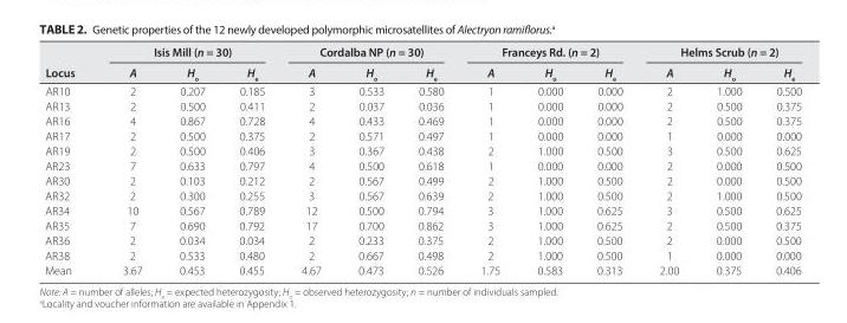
<table><thead><tr><td rowspan="2">Locus</td><td colspan="3">Isis Mill (n = 30)</td><td colspan="3">Cordalba NP (n = 30)</td><td colspan="3">Franceys Rd. (n = 2)</td><td colspan="3">Helms Scrub (n = 2)</td></tr><tr><td>A</td><td>H<sub>o</sub></td><td>H<sub>e</sub></td><td>A</td><td>H<sub>o</sub></td><td>H<sub>e</sub></td><td>A</td><td>H<sub>o</sub></td><td>H<sub>e</sub></td><td>A</td><td>H<sub>o</sub></td><td>H<sub>e</sub></td></tr></thead><tbody><tr><td>AR10</td><td>2</td><td>0.207</td><td>0.185</td><td>3</td><td>0.533</td><td>0.580</td><td>1</td><td>0.000</td><td>0.000</td><td>2</td><td>1.000</td><td>0.500</td></tr><tr><td>AR13</td><td>2</td><td>0.500</td><td>0.411</td><td>2</td><td>0.037</td><td>0.036</td><td>1</td><td>0.000</td><td>0.000</td><td>2</td><td>0.500</td><td>0.375</td></tr><tr><td>AR16</td><td>4</td><td>0.867</td><td>0.728</td><td>4</td><td>0.433</td><td>0.469</td><td>1</td><td>0.000</td><td>0.000</td><td>2</td><td>0.500</td><td>0.375</td></tr><tr><td>AR17</td><td>2</td><td>0.500</td><td>0.375</td><td>2</td><td>0.571</td><td>0.497</td><td>1</td><td>0.000</td><td>0.000</td><td>1</td><td>0.000</td><td>0.000</td></tr><tr><td>AR19</td><td>2</td><td>0.500</td><td>0.406</td><td>3</td><td>0.367</td><td>0.438</td><td>2</td><td>1.000</td><td>0.500</td><td>3</td><td>0.500</td><td>0.625</td></tr><tr><td>AR23</td><td>7</td><td>0.633</td><td>0.797</td><td>4</td><td>0.500</td><td>0.618</td><td>1</td><td>0.000</td><td>0.000</td><td>2</td><td>0.000</td><td>0.500</td></tr><tr><td>AR30</td><td>2</td><td>0.103</td><td>0.212</td><td>2</td><td>0.567</td><td>0.499</td><td>2</td><td>1.000</td><td>0.500</td><td>2</td><td>0.000</td><td>0.500</td></tr><tr><td>AR32</td><td>2</td><td>0.300</td><td>0.255</td><td>3</td><td>0.567</td><td>0.639</td><td>2</td><td>1.000</td><td>0.500</td><td>2</td><td>1.000</td><td>0.500</td></tr><tr><td>AR34</td><td>10</td><td>0.567</td><td>0.789</td><td>12</td><td>0.500</td><td>0.794</td><td>3</td><td>1.000</td><td>0.625</td><td>3</td><td>0.500</td><td>0.625</td></tr><tr><td>AR35</td><td>7</td><td>0.690</td><td>0.792</td><td>17</td><td>0.700</td><td>0.862</td><td>3</td><td>1.000</td><td>0.625</td><td>2</td><td>0.500</td><td>0.375</td></tr><tr><td>AR36</td><td>2</td><td>0.034</td><td>0.034</td><td>2</td><td>0.233</td><td>0.375</td><td>2</td><td>1.000</td><td>0.500</td><td>2</td><td>0.000</td><td>0.500</td></tr><tr><td>AR38</td><td>2</td><td>0.533</td><td>0.480</td><td>2</td><td>0.667</td><td>0.498</td><td>2</td><td>1.000</td><td>0.500</td><td>1</td><td>0.000</td><td>0.000</td></tr><tr><td>Mean</td><td>3.67</td><td>0.453</td><td>0.455</td><td>4.67</td><td>0.473</td><td>0.526</td><td>1.75</td><td>0.583</td><td>0.313</td><td>2.00</td><td>0.375</td><td>0.406</td></tr></tbody></table>